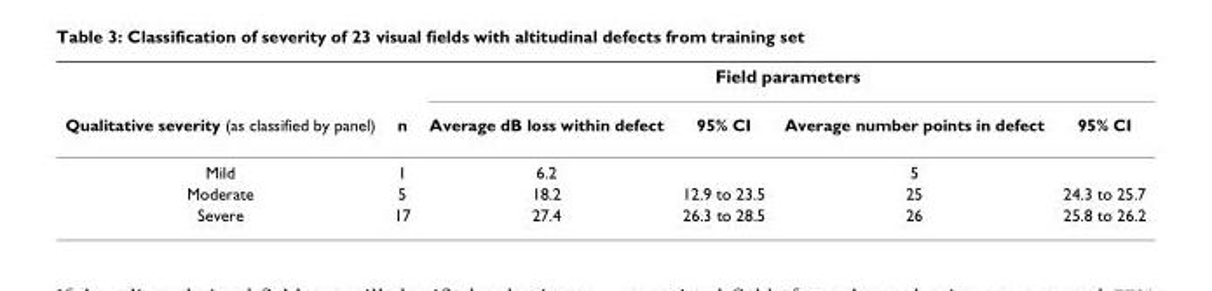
<table><thead><tr><td rowspan="2">Qualitative severity (as classified by panel)</td><td rowspan="2">n</td><td colspan="4">Field parameters</td></tr><tr><td>Average dB loss within defect</td><td>95% CI</td><td>Average number points in defect</td><td>95% CI</td></tr></thead><tbody><tr><td>Mild</td><td>1</td><td>6.2</td><td></td><td>5</td><td></td></tr><tr><td>Moderate</td><td>5</td><td>18.2</td><td>12.9 to 23.5</td><td>25</td><td>24.3 to 25.7</td></tr><tr><td>Severe</td><td>17</td><td>27.4</td><td>26.3 to 28.5</td><td>26</td><td>25.8 to 26.2</td></tr></tbody></table>